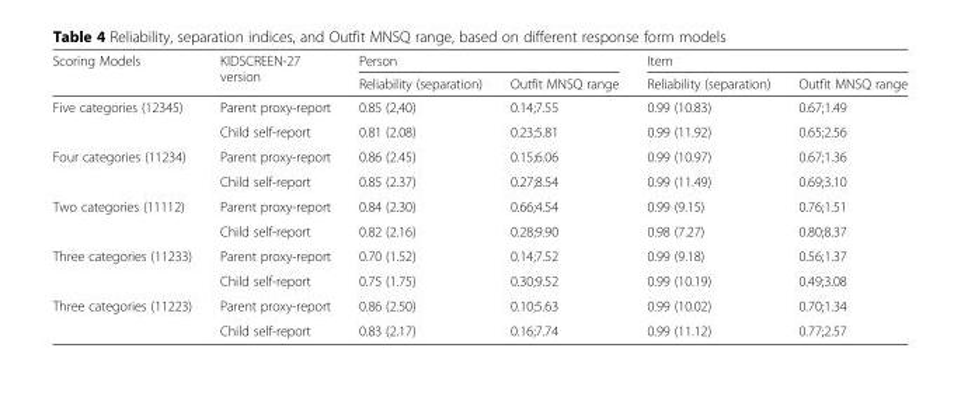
<table><thead><tr><td rowspan="2">Scoring Models</td><td rowspan="2">KIDSCREEN-27 version</td><td colspan="2">Person</td><td colspan="2">Item</td></tr><tr><td>Reliability (separation)</td><td>Outfit MNSQ range</td><td>Reliability (separation)</td><td>Outfit MNSQ range</td></tr></thead><tbody><tr><td rowspan="2">Five categories (12345)</td><td>Parent proxy-report</td><td>0.85 (2,40)</td><td>0.14;7.55</td><td>0.99 (10.83)</td><td>0.67;1.49</td></tr><tr><td>Child self-report</td><td>0.81 (2.08)</td><td>0.23;5.81</td><td>0.99 (11.92)</td><td>0.65;2.56</td></tr><tr><td rowspan="2">Four categories (11234)</td><td>Parent proxy-report</td><td>0.86 (2.45)</td><td>0.15;6.06</td><td>0.99 (10.97)</td><td>0.67;1.36</td></tr><tr><td>Child self-report</td><td>0.85 (2.37)</td><td>0.27;8.54</td><td>0.99 (11.49)</td><td>0.69;3.10</td></tr><tr><td rowspan="2">Two categories (11112)</td><td>Parent proxy-report</td><td>0.84 (2.30)</td><td>0.66;4.54</td><td>0.99 (9.15)</td><td>0.76;1.51</td></tr><tr><td>Child self-report</td><td>0.82 (2.16)</td><td>0.28;9.90</td><td>0.98 (7.27)</td><td>0.80;8.37</td></tr><tr><td rowspan="2">Three categories (11233)</td><td>Parent proxy-report</td><td>0.70 (1.52)</td><td>0.14;7.52</td><td>0.99 (9.18)</td><td>0.56;1.37</td></tr><tr><td>Child self-report</td><td>0.75 (1.75)</td><td>0.30;9.52</td><td>0.99 (10.19)</td><td>0.49;3.08</td></tr><tr><td rowspan="2">Three categories (11223)</td><td>Parent proxy-report</td><td>0.86 (2.50)</td><td>0.10;5.63</td><td>0.99 (10.02)</td><td>0.70;1.34</td></tr><tr><td>Child self-report</td><td>0.83 (2.17)</td><td>0.16;7.74</td><td>0.99 (11.12)</td><td>0.77;2.57</td></tr></tbody></table>